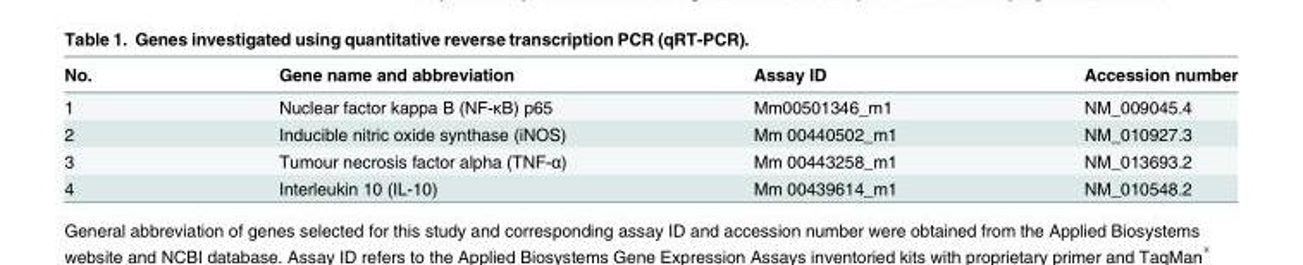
<table><thead><tr><td>No.</td><td>Gene name and abbreviation</td><td>Assay ID</td><td>Accession number</td></tr></thead><tbody><tr><td>1</td><td>Nuclear factor kappa B (NF-κB) p65</td><td>Mm00501346_m1</td><td>NM_009045.4</td></tr><tr><td>2</td><td>Inducible nitric oxide synthase (iNOS)</td><td>Mm 00440502_m1</td><td>NM_010927.3</td></tr><tr><td>3</td><td>Tumour necrosis factor alpha (TNF-α)</td><td>Mm 00443258_m1</td><td>NM_013693.2</td></tr><tr><td>4</td><td>Interleukin 10 (IL-10)</td><td>Mm 00439614_m1</td><td>NM_010548.2</td></tr></tbody></table>